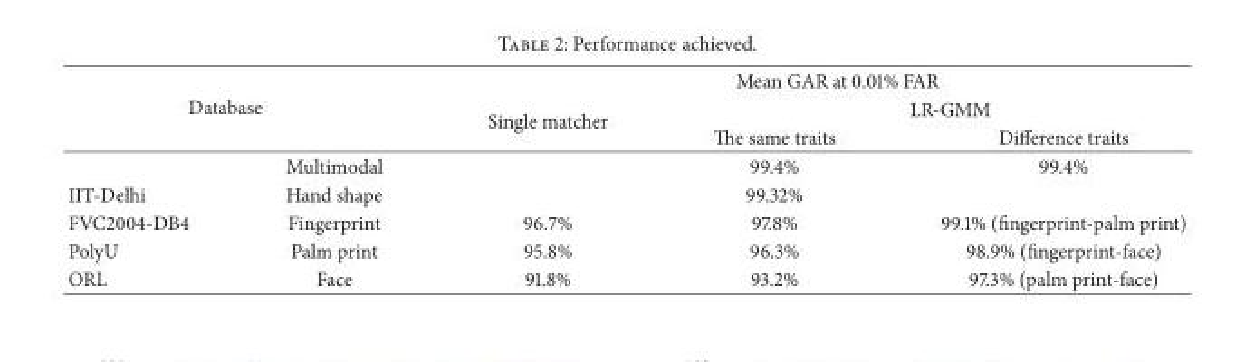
<table><thead><tr><td rowspan="3" colspan="2">Database</td><td colspan="3">Mean GAR at 0.01% FAR</td></tr><tr><td rowspan="3">Single matcher</td><td colspan="2">LR-GMM</td></tr><tr><td rowspan="2">The same traits 99.4%</td><td rowspan="2">Difference traits 99.4%</td></tr><tr><td></td><td>Multimodal</td></tr></thead><tbody><tr><td>IIT-Delhi</td><td>Hand shape</td><td></td><td>99.32%</td><td></td></tr><tr><td>FVC2004-DB4</td><td>Fingerprint</td><td>96.7%</td><td>97.8%</td><td>99.1% (fingerprint-palm print)</td></tr><tr><td>PolyU</td><td>Palm print</td><td>95.8%</td><td>96.3%</td><td>98.9% (fingerprint-face)</td></tr><tr><td>ORL</td><td>Face</td><td>91.8%</td><td>93.2%</td><td>97.3% (palm print-face)</td></tr></tbody></table>